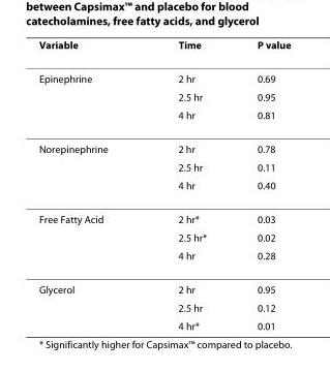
<table><thead><tr><td>Variable</td><td>Time</td><td>P value</td></tr></thead><tbody><tr><td rowspan="3">Epinephrine</td><td>2 hr</td><td>0.69</td></tr><tr><td>2.5 hr</td><td>0.95</td></tr><tr><td>4 hr</td><td>0.81</td></tr><tr><td rowspan="3">Norepinephrine</td><td>2 hr</td><td>0.78</td></tr><tr><td>2.5 hr</td><td>0.11</td></tr><tr><td>4 hr</td><td>0.40</td></tr><tr><td rowspan="3">Free Fatty Acid</td><td>2 hr*</td><td>0.03</td></tr><tr><td>2.5 hr*</td><td>0.02</td></tr><tr><td>4 hr</td><td>0.28</td></tr><tr><td rowspan="3">Glycerol</td><td>2 hr</td><td>0.95</td></tr><tr><td>2.5 hr</td><td>0.12</td></tr><tr><td>4 hr*</td><td>0.01</td></tr></tbody></table>